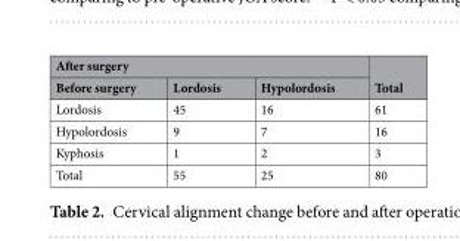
<table><thead><tr><td colspan="3">After surgery</td><td rowspan="2">Total</td></tr><tr><td>Before surgery</td><td>Lordosis</td><td>Hypolordosis</td></tr></thead><tbody><tr><td>Lordosis</td><td>45</td><td>16</td><td>61</td></tr><tr><td>Hypolordosis</td><td>9</td><td>7</td><td>16</td></tr><tr><td>Kyphosis</td><td>1</td><td>2</td><td>3</td></tr><tr><td>Total</td><td>55</td><td>25</td><td>80</td></tr></tbody></table>